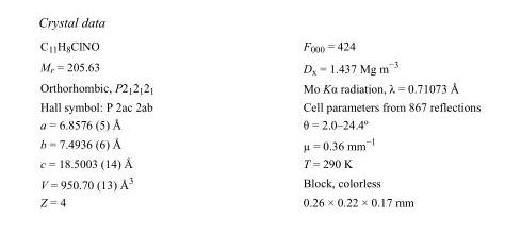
<table><tbody><tr><td>C<sub>11</sub>H<sub>8</sub>ClNO</td><td>F000 = 424</td></tr><tr><td>M<sub>r</sub> = 205.63</td><td>D<sub>x</sub> = 1.437 Mg m<sup>−3</sup></td></tr><tr><td>Orthorhombic, P2<sub>1</sub>2<sub>1</sub>2<sub>1</sub></td><td>Mo Kα radiation, λ = 0.71073 Å</td></tr><tr><td>Hall symbol: P 2ac 2ab</td><td>Cell parameters from 867 reflections</td></tr><tr><td>a = 6.8576 (5) Å</td><td>θ = 2.0–24.4º</td></tr><tr><td>b = 7.4936 (6) Å</td><td>µ = 0.36 mm<sup>−1</sup></td></tr><tr><td>c = 18.5003 (14) Å</td><td>T = 290 K</td></tr><tr><td>V = 950.70 (13) Å<sup>3</sup></td><td>Block, colorless</td></tr><tr><td>Z = 4</td><td>0.26 × 0.22 × 0.17 mm</td></tr></tbody></table>